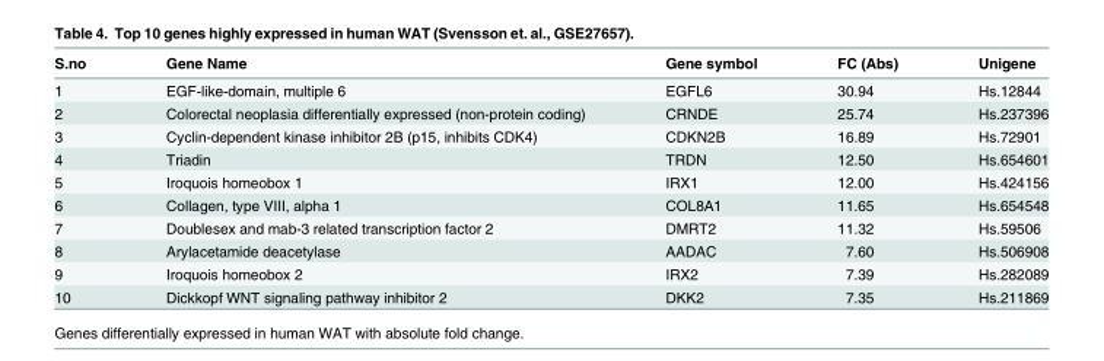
<table><thead><tr><td>S.no</td><td>Gene Name</td><td>Gene symbol</td><td>FC (Abs)</td><td>Unigene</td></tr></thead><tbody><tr><td>1</td><td>EGF-like-domain, multiple 6</td><td>EGFL6</td><td>30.94</td><td>Hs.12844</td></tr><tr><td>2</td><td>Colorectal neoplasia differentially expressed (non-protein coding)</td><td>CRNDE</td><td>25.74</td><td>Hs.237396</td></tr><tr><td>3</td><td>Cyclin-dependent kinase inhibitor 2B (p15, inhibits CDK4)</td><td>CDKN2B</td><td>16.89</td><td>Hs.72901</td></tr><tr><td>4</td><td>Triadin</td><td>TRDN</td><td>12.50</td><td>Hs.654601</td></tr><tr><td>5</td><td>Iroquois homeobox 1</td><td>IRX1</td><td>12.00</td><td>Hs.424156</td></tr><tr><td>6</td><td>Collagen, type VIII, alpha 1</td><td>COL8A1</td><td>11.65</td><td>Hs.654548</td></tr><tr><td>7</td><td>Doublesex and mab-3 related transcription factor 2</td><td>DMRT2</td><td>11.32</td><td>Hs.59506</td></tr><tr><td>8</td><td>Arylacetamide deacetylase</td><td>AADAC</td><td>7.60</td><td>Hs.506908</td></tr><tr><td>9</td><td>Iroquois homeobox 2</td><td>IRX2</td><td>7.39</td><td>Hs.282089</td></tr><tr><td>10</td><td>Dickkopf WNT signaling pathway inhibitor 2</td><td>DKK2</td><td>7.35</td><td>Hs.211869</td></tr></tbody></table>